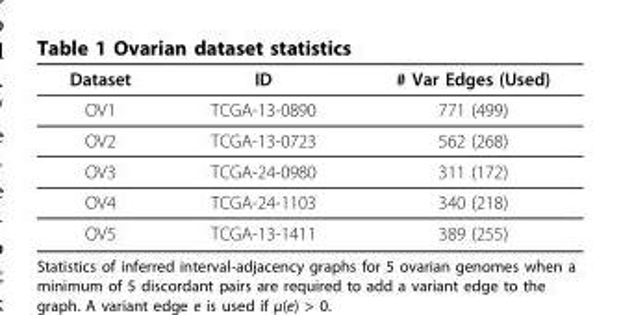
<table><thead><tr><td>Dataset</td><td>ID</td><td># Var Edges (Used)</td></tr></thead><tbody><tr><td>OV1</td><td>TCGA-13-0890</td><td>771 (499)</td></tr><tr><td>OV2</td><td>TCGA-13-0723</td><td>562 (268)</td></tr><tr><td>OV3</td><td>TCGA-24-0980</td><td>311 (172)</td></tr><tr><td>OV4</td><td>TCGA-24-1103</td><td>340 (218)</td></tr><tr><td>OV5</td><td>TCGA-13-1411</td><td>389 (255)</td></tr></tbody></table>